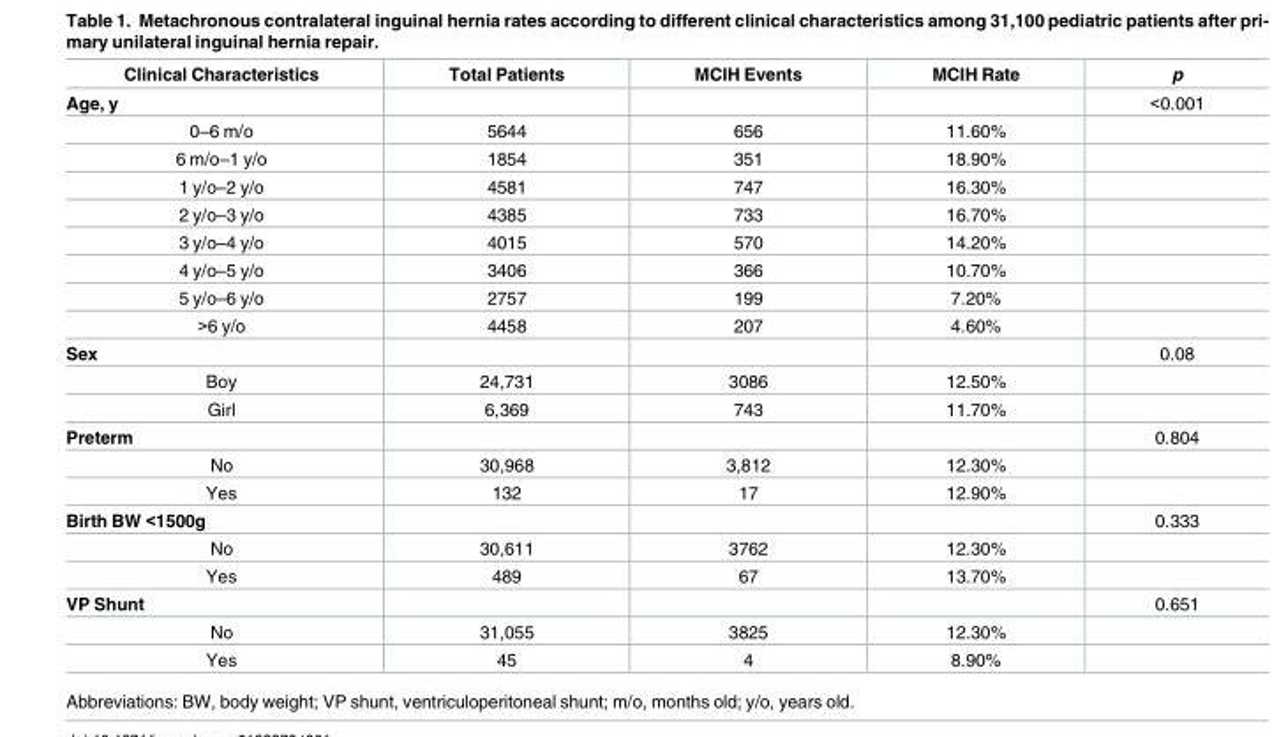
<table><thead><tr><td>Clinical Characteristics</td><td>Total Patients</td><td>MCIH Events</td><td>MCIH Rate</td><td>p</td></tr></thead><tbody><tr><td>Age, y</td><td></td><td></td><td></td><td>&lt;0.001</td></tr><tr><td>0–6 m/o</td><td>5644</td><td>656</td><td>11.60%</td><td></td></tr><tr><td>6 m/o–1 y/o</td><td>1854</td><td>351</td><td>18.90%</td><td></td></tr><tr><td>1 y/o–2 y/o</td><td>4581</td><td>747</td><td>16.30%</td><td></td></tr><tr><td>2 y/o–3 y/o</td><td>4385</td><td>733</td><td>16.70%</td><td></td></tr><tr><td>3 y/o–4 y/o</td><td>4015</td><td>570</td><td>14.20%</td><td></td></tr><tr><td>4 y/o–5 y/o</td><td>3406</td><td>366</td><td>10.70%</td><td></td></tr><tr><td>5 y/o–6 y/o</td><td>2757</td><td>199</td><td>7.20%</td><td></td></tr><tr><td>&gt;6 y/o</td><td>4458</td><td>207</td><td>4.60%</td><td></td></tr><tr><td>Sex</td><td></td><td></td><td></td><td>0.08</td></tr><tr><td>Boy</td><td>24,731</td><td>3086</td><td>12.50%</td><td></td></tr><tr><td>Girl</td><td>6,369</td><td>743</td><td>11.70%</td><td></td></tr><tr><td>Preterm</td><td></td><td></td><td></td><td>0.804</td></tr><tr><td>No</td><td>30,968</td><td>3,812</td><td>12.30%</td><td></td></tr><tr><td>Yes</td><td>132</td><td>17</td><td>12.90%</td><td></td></tr><tr><td>Birth BW &lt;1500g</td><td></td><td></td><td></td><td>0.333</td></tr><tr><td>No</td><td>30,611</td><td>3762</td><td>12.30%</td><td></td></tr><tr><td>Yes</td><td>489</td><td>67</td><td>13.70%</td><td></td></tr><tr><td>VP Shunt</td><td></td><td></td><td></td><td>0.651</td></tr><tr><td>No</td><td>31,055</td><td>3825</td><td>12.30%</td><td></td></tr><tr><td>Yes</td><td>45</td><td>4</td><td>8.90%</td><td></td></tr></tbody></table>